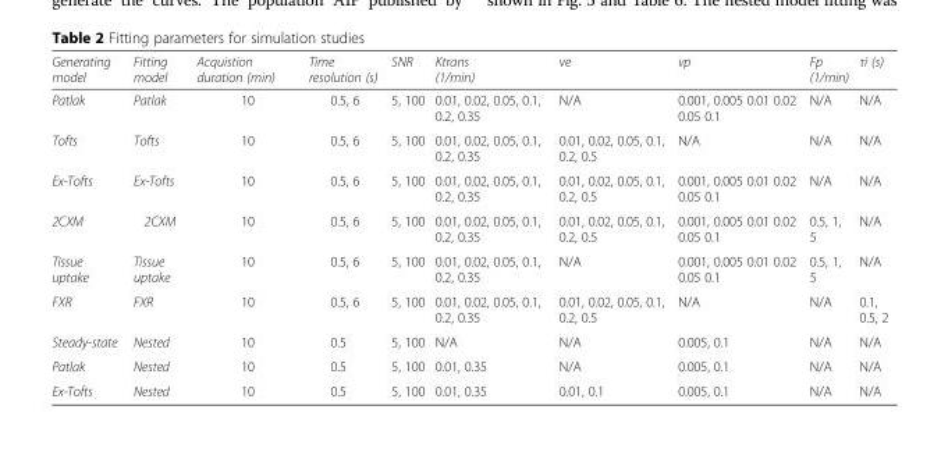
<table><thead><tr><td>Generating model</td><td>Fitting model</td><td>Acquistion duration (min)</td><td>Time resolution (s)</td><td>SNR</td><td>Ktrans (1/min)</td><td>ve</td><td>vp</td><td>Fp (1/min)</td><td>τi (s)</td></tr></thead><tbody><tr><td>Patlak</td><td>Patlak</td><td>10</td><td>0.5, 6</td><td>5, 100</td><td>0.01, 0.02, 0.05, 0.1, 0.2, 0.35</td><td>N/A</td><td>0.001, 0.005 0.01 0.02 0.05 0.1</td><td>N/A</td><td>N/A</td></tr><tr><td>Tofts</td><td>Tofts</td><td>10</td><td>0.5, 6</td><td>5, 100</td><td>0.01, 0.02, 0.05, 0.1, 0.2, 0.35</td><td>0.01, 0.02, 0.05, 0.1, 0.2, 0.5</td><td>N/A</td><td>N/A</td><td>N/A</td></tr><tr><td>Ex-Tofts</td><td>Ex-Tofts</td><td>10</td><td>0.5, 6</td><td>5, 100</td><td>0.01, 0.02, 0.05, 0.1, 0.2, 0.35</td><td>0.01, 0.02, 0.05, 0.1, 0.2, 0.5</td><td>0.001, 0.005 0.01 0.02 0.05 0.1</td><td>N/A</td><td>N/A</td></tr><tr><td>2CXM</td><td>2CXM</td><td>10</td><td>0.5, 6</td><td>5, 100</td><td>0.01, 0.02, 0.05, 0.1, 0.2, 0.35</td><td>0.01, 0.02, 0.05, 0.1, 0.2, 0.5</td><td>0.001, 0.005 0.01 0.02 0.05 0.1</td><td>0.5, 1, 5</td><td>N/A</td></tr><tr><td>Tissue uptake</td><td>Tissue uptake</td><td>10</td><td>0.5, 6</td><td>5, 100</td><td>0.01, 0.02, 0.05, 0.1, 0.2, 0.35</td><td>N/A</td><td>0.001, 0.005 0.01 0.02 0.05 0.1</td><td>0.5, 1, 5</td><td>N/A</td></tr><tr><td>FXR</td><td>FXR</td><td>10</td><td>0.5, 6</td><td>5, 100</td><td>0.01, 0.02, 0.05, 0.1, 0.2, 0.35</td><td>0.01, 0.02, 0.05, 0.1, 0.2, 0.5</td><td>N/A</td><td>N/A</td><td>0.1, 0.5, 2</td></tr><tr><td>Steady-state</td><td>Nested</td><td>10</td><td>0.5</td><td>5, 100</td><td>N/A</td><td>N/A</td><td>0.005, 0.1</td><td>N/A</td><td>N/A</td></tr><tr><td>Patlak</td><td>Nested</td><td>10</td><td>0.5</td><td>5, 100</td><td>0.01, 0.35</td><td>N/A</td><td>0.005, 0.1</td><td>N/A</td><td>N/A</td></tr><tr><td>Ex-Tofts</td><td>Nested</td><td>10</td><td>0.5</td><td>5, 100</td><td>0.01, 0.35</td><td>0.01, 0.1</td><td>0.005, 0.1</td><td>N/A</td><td>N/A</td></tr></tbody></table>